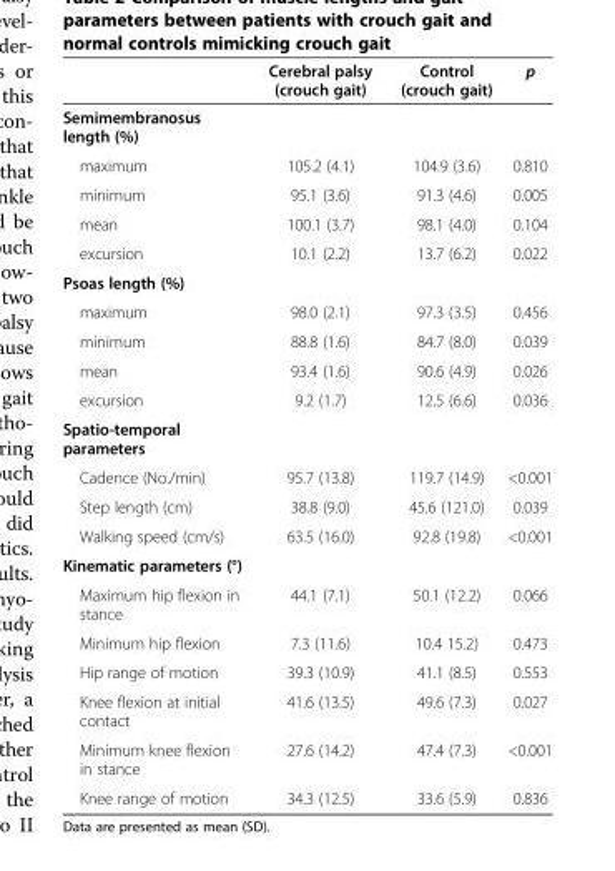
<table><thead><tr><td></td><td>Cerebral palsy (crouch gait)</td><td>Control (crouch gait)</td><td>p</td></tr></thead><tbody><tr><td colspan="4">Semimembranosus length (%)</td></tr><tr><td>maximum</td><td>105.2 (4.1)</td><td>104.9 (3.6)</td><td>0.810</td></tr><tr><td>minimum</td><td>95.1 (3.6)</td><td>91.3 (4.6)</td><td>0.005</td></tr><tr><td>mean</td><td>100.1 (3.7)</td><td>98.1 (4.0)</td><td>0.104</td></tr><tr><td>excursion</td><td>10.1 (2.2)</td><td>13.7 (6.2)</td><td>0.022</td></tr><tr><td colspan="4">Psoas length (%)</td></tr><tr><td>maximum</td><td>98.0 (2.1)</td><td>97.3 (3.5)</td><td>0.456</td></tr><tr><td>minimum</td><td>88.8 (1.6)</td><td>84.7 (8.0)</td><td>0.039</td></tr><tr><td>mean</td><td>93.4 (1.6)</td><td>90.6 (4.9)</td><td>0.026</td></tr><tr><td>excursion</td><td>9.2 (1.7)</td><td>12.5 (6.6)</td><td>0.036</td></tr><tr><td colspan="4">Spatio-temporal parameters</td></tr><tr><td>Cadence (No./min)</td><td>95.7 (13.8)</td><td>119.7 (14.9)</td><td>&lt;0.001</td></tr><tr><td>Step length (cm)</td><td>38.8 (9.0)</td><td>45.6 (121.0)</td><td>0.039</td></tr><tr><td>Walking speed (cm/s)</td><td>63.5 (16.0)</td><td>92.8 (19.8)</td><td>&lt;0.001</td></tr><tr><td colspan="4">Kinematic parameters (°)</td></tr><tr><td>Maximum hip flexion in stance</td><td>44.1 (7.1)</td><td>50.1 (12.2)</td><td>0.066</td></tr><tr><td>Minimum hip flexion</td><td>7.3 (11.6)</td><td>10.4 15.2)</td><td>0.473</td></tr><tr><td>Hip range of motion</td><td>39.3 (10.9)</td><td>41.1 (8.5)</td><td>0.553</td></tr><tr><td>Knee flexion at initial contact</td><td>41.6 (13.5)</td><td>49.6 (7.3)</td><td>0.027</td></tr><tr><td>Minimum knee flexion in stance</td><td>27.6 (14.2)</td><td>47.4 (7.3)</td><td>&lt;0.001</td></tr><tr><td>Knee range of motion</td><td>34.3 (12.5)</td><td>33.6 (5.9)</td><td>0.836</td></tr></tbody></table>